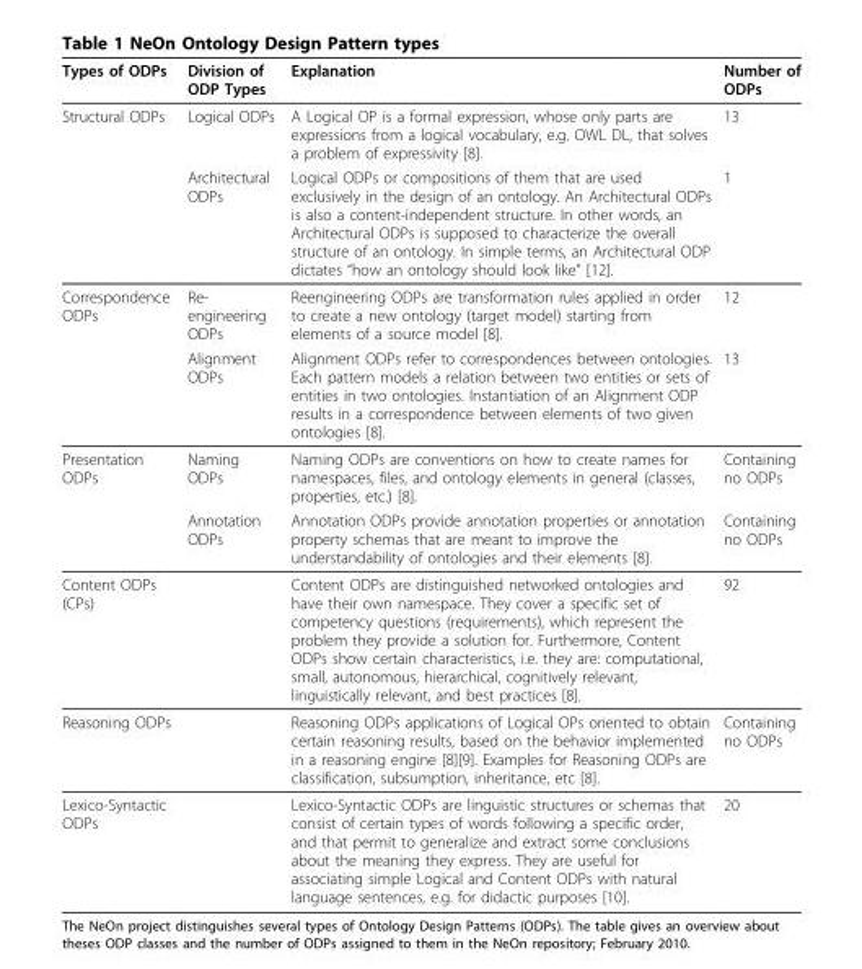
<table><thead><tr><td>Types of ODPs</td><td>Division of ODP Types</td><td>Explanation</td><td>Number of ODPs</td></tr></thead><tbody><tr><td rowspan="2">Structural ODPs</td><td>Logical ODPs</td><td>A Logical OP is a formal expression, whose only parts are expressions from a logical vocabulary, e.g. OWL DL, that solves a problem of expressivity [8].</td><td>13</td></tr><tr><td>Architectural ODPs</td><td>Logical ODPs or compositions of them that are used exclusively in the design of an ontology. An Architectural ODPs is also a content-independent structure. In other words, an Architectural ODPs is supposed to characterize the overall structure of an ontology. In simple terms, an Architectural ODP dictates “how an ontology should look like” [12].</td><td>1</td></tr><tr><td rowspan="2">Correspondence ODPs</td><td>Re- engineering ODPs</td><td>Reengineering ODPs are transformation rules applied in order to create a new ontology (target model) starting from elements of a source model [8].</td><td>12</td></tr><tr><td>Alignment ODPs</td><td>Alignment ODPs refer to correspondences between ontologies. Each pattern models a relation between two entities or sets of entities in two ontologies. Instantiation of an Alignment ODP results in a correspondence between elements of two given ontologies [8].</td><td>13</td></tr><tr><td rowspan="2">Presentation ODPs</td><td>Naming ODPs</td><td>Naming ODPs are conventions on how to create names for namespaces, files, and ontology elements in general (classes, properties, etc.) [8].</td><td>Containing no ODPs</td></tr><tr><td>Annotation ODPs</td><td>Annotation ODPs provide annotation properties or annotation property schemas that are meant to improve the understandability of ontologies and their elements [8].</td><td>Containing no ODPs</td></tr><tr><td>Content ODPs (CPs)</td><td></td><td>Content ODPs are distinguished networked ontologies and have their own namespace. They cover a specific set of competency questions (requirements), which represent the problem they provide a solution for. Furthermore, Content ODPs show certain characteristics, i.e. they are: computational, small, autonomous, hierarchical, cognitively relevant, linguistically relevant, and best practices [8].</td><td>92</td></tr><tr><td>Reasoning ODPs</td><td></td><td>Reasoning ODPs applications of Logical OPs oriented to obtain certain reasoning results, based on the behavior implemented in a reasoning engine [8][9]. Examples for Reasoning ODPs are classification, subsumption, inheritance, etc [8].</td><td>Containing no ODPs</td></tr><tr><td>Lexico-Syntactic ODPs</td><td></td><td>Lexico-Syntactic ODPs are linguistic structures or schemas that consist of certain types of words following a specific order, and that permit to generalize and extract some conclusions about the meaning they express. They are useful for associating simple Logical and Content ODPs with natural language sentences, e.g. for didactic purposes [10].</td><td>20</td></tr></tbody></table>